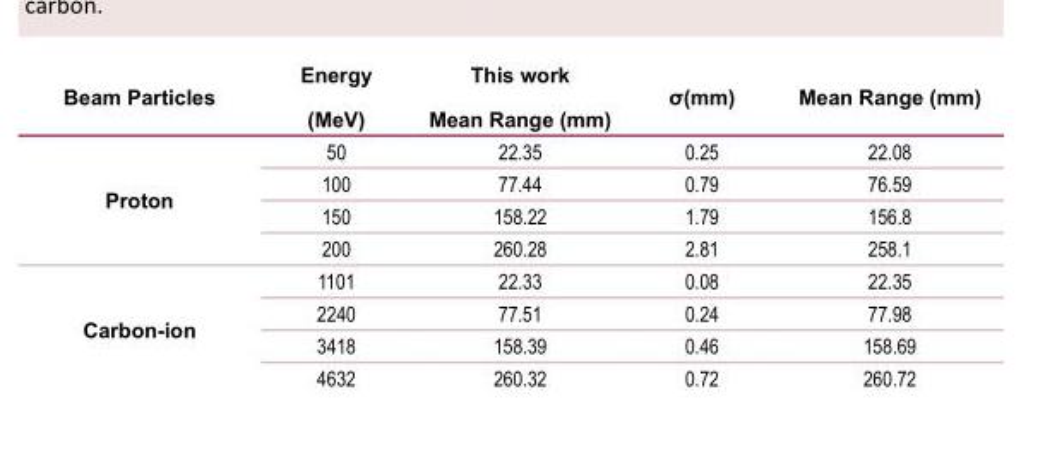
<table><thead><tr><td>Beam Particles</td><td>Energy (MeV)</td><td>This work Mean Range (mm)</td><td>σ(mm)</td><td>Mean Range (mm)</td></tr></thead><tbody><tr><td rowspan="4">Proton</td><td>50</td><td>22.35</td><td>0.25</td><td>22.08</td></tr><tr><td>100</td><td>77.44</td><td>0.79</td><td>76.59</td></tr><tr><td>150</td><td>158.22</td><td>1.79</td><td>156.8</td></tr><tr><td>200</td><td>260.28</td><td>2.81</td><td>258.1</td></tr><tr><td rowspan="4">Carbon-ion</td><td>1101</td><td>22.33</td><td>0.08</td><td>22.35</td></tr><tr><td>2240</td><td>77.51</td><td>0.24</td><td>77.98</td></tr><tr><td>3418</td><td>158.39</td><td>0.46</td><td>158.69</td></tr><tr><td>4632</td><td>260.32</td><td>0.72</td><td>260.72</td></tr></tbody></table>